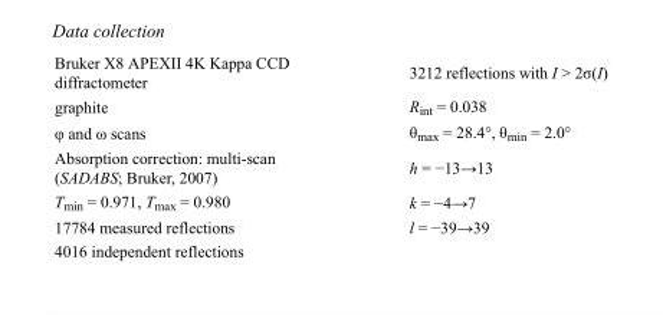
<table><tbody><tr><td>Bruker X8 APEXII 4K Kappa CCD diffractometer</td><td>3212 reflections with I &gt; 2σ(I)</td></tr><tr><td>graphite</td><td>R<sub>int</sub> = 0.038</td></tr><tr><td>φ and ω scans</td><td>θ<sub>max</sub> = 28.4°, θ<sub>min</sub> = 2.0°</td></tr><tr><td>Absorption correction: multi-scan (SADABS; Bruker, 2007)</td><td>h = −13→13</td></tr><tr><td>T<sub>min</sub> = 0.971, T<sub>max</sub> = 0.980</td><td>k = −4→7</td></tr><tr><td>17784 measured reflections</td><td>l = −39→39</td></tr><tr><td>4016 independent reflections</td><td></td></tr></tbody></table>